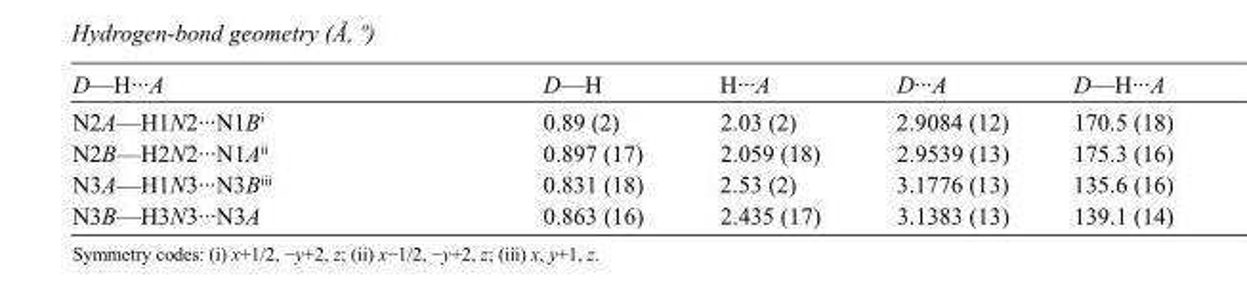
<table><tbody><tr><td>D—H···A</td><td>D—H</td><td>H···A</td><td>D···A</td><td>D—H···A</td></tr><tr><td>N2A—H1N2···N1B<sup>i</sup></td><td>0.89 (2)</td><td>2.03 (2)</td><td>2.9084 (12)</td><td>170.5 (18)</td></tr><tr><td>N2B—H2N2···N1A<sup>ii</sup></td><td>0.897 (17)</td><td>2.059 (18)</td><td>2.9539 (13)</td><td>175.3 (16)</td></tr><tr><td>N3A—H1N3···N3B<sup>iii</sup></td><td>0.831 (18)</td><td>2.53 (2)</td><td>3.1776 (13)</td><td>135.6 (16)</td></tr><tr><td>N3B—H3N3···N3A</td><td>0.863 (16)</td><td>2.435 (17)</td><td>3.1383 (13)</td><td>139.1 (14)</td></tr></tbody></table>